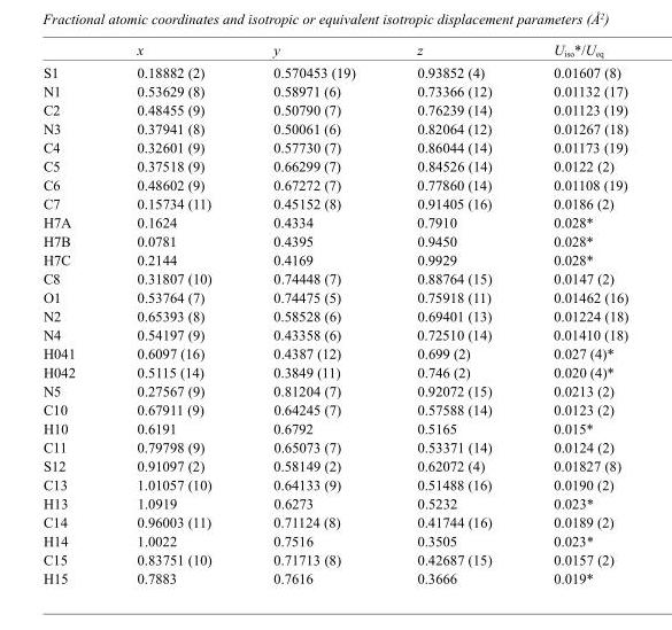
<table><thead><tr><td></td><td>x</td><td>y</td><td>z</td><td>U<sub>iso</sub>*/U<sub>eq</sub></td></tr></thead><tbody><tr><td>S1</td><td>0.18882 (2)</td><td>0.570453 (19)</td><td>0.93852 (4)</td><td>0.01607 (8)</td></tr><tr><td>N1</td><td>0.53629 (8)</td><td>0.58971 (6)</td><td>0.73366 (12)</td><td>0.01132 (17)</td></tr><tr><td>C2</td><td>0.48455 (9)</td><td>0.50790 (7)</td><td>0.76239 (14)</td><td>0.01123 (19)</td></tr><tr><td>N3</td><td>0.37941 (8)</td><td>0.50061 (6)</td><td>0.82064 (12)</td><td>0.01267 (18)</td></tr><tr><td>C4</td><td>0.32601 (9)</td><td>0.57730 (7)</td><td>0.86044 (14)</td><td>0.01173 (19)</td></tr><tr><td>C5</td><td>0.37518 (9)</td><td>0.66299 (7)</td><td>0.84526 (14)</td><td>0.0122 (2)</td></tr><tr><td>C6</td><td>0.48602 (9)</td><td>0.67272 (7)</td><td>0.77860 (14)</td><td>0.01108 (19)</td></tr><tr><td>C7</td><td>0.15734 (11)</td><td>0.45152 (8)</td><td>0.91405 (16)</td><td>0.0186 (2)</td></tr><tr><td>H7A</td><td>0.1624</td><td>0.4334</td><td>0.7910</td><td>0.028*</td></tr><tr><td>H7B</td><td>0.0781</td><td>0.4395</td><td>0.9450</td><td>0.028*</td></tr><tr><td>H7C</td><td>0.2144</td><td>0.4169</td><td>0.9929</td><td>0.028*</td></tr><tr><td>C8</td><td>0.31807 (10)</td><td>0.74448 (7)</td><td>0.88764 (15)</td><td>0.0147 (2)</td></tr><tr><td>O1</td><td>0.53764 (7)</td><td>0.74475 (5)</td><td>0.75918 (11)</td><td>0.01462 (16)</td></tr><tr><td>N2</td><td>0.65393 (8)</td><td>0.58528 (6)</td><td>0.69401 (13)</td><td>0.01224 (18)</td></tr><tr><td>N4</td><td>0.54197 (9)</td><td>0.43358 (6)</td><td>0.72510 (14)</td><td>0.01410 (18)</td></tr><tr><td>H041</td><td>0.6097 (16)</td><td>0.4387 (12)</td><td>0.699 (2)</td><td>0.027 (4)*</td></tr><tr><td>H042</td><td>0.5115 (14)</td><td>0.3849 (11)</td><td>0.746 (2)</td><td>0.020 (4)*</td></tr><tr><td>N5</td><td>0.27567 (9)</td><td>0.81204 (7)</td><td>0.92072 (15)</td><td>0.0213 (2)</td></tr><tr><td>C10</td><td>0.67911 (9)</td><td>0.64245 (7)</td><td>0.57588 (14)</td><td>0.0123 (2)</td></tr><tr><td>H10</td><td>0.6191</td><td>0.6792</td><td>0.5165</td><td>0.015*</td></tr><tr><td>C11</td><td>0.79798 (9)</td><td>0.65073 (7)</td><td>0.53371 (14)</td><td>0.0124 (2)</td></tr><tr><td>S12</td><td>0.91097 (2)</td><td>0.58149 (2)</td><td>0.62072 (4)</td><td>0.01827 (8)</td></tr><tr><td>C13</td><td>1.01057 (10)</td><td>0.64133 (9)</td><td>0.51488 (16)</td><td>0.0190 (2)</td></tr><tr><td>H13</td><td>1.0919</td><td>0.6273</td><td>0.5232</td><td>0.023*</td></tr><tr><td>C14</td><td>0.96003 (11)</td><td>0.71124 (8)</td><td>0.41744 (16)</td><td>0.0189 (2)</td></tr><tr><td>H14</td><td>1.0022</td><td>0.7516</td><td>0.3505</td><td>0.023*</td></tr><tr><td>C15</td><td>0.83751 (10)</td><td>0.71713 (8)</td><td>0.42687 (15)</td><td>0.0157 (2)</td></tr><tr><td>H15</td><td>0.7883</td><td>0.7616</td><td>0.3666</td><td>0.019*</td></tr></tbody></table>